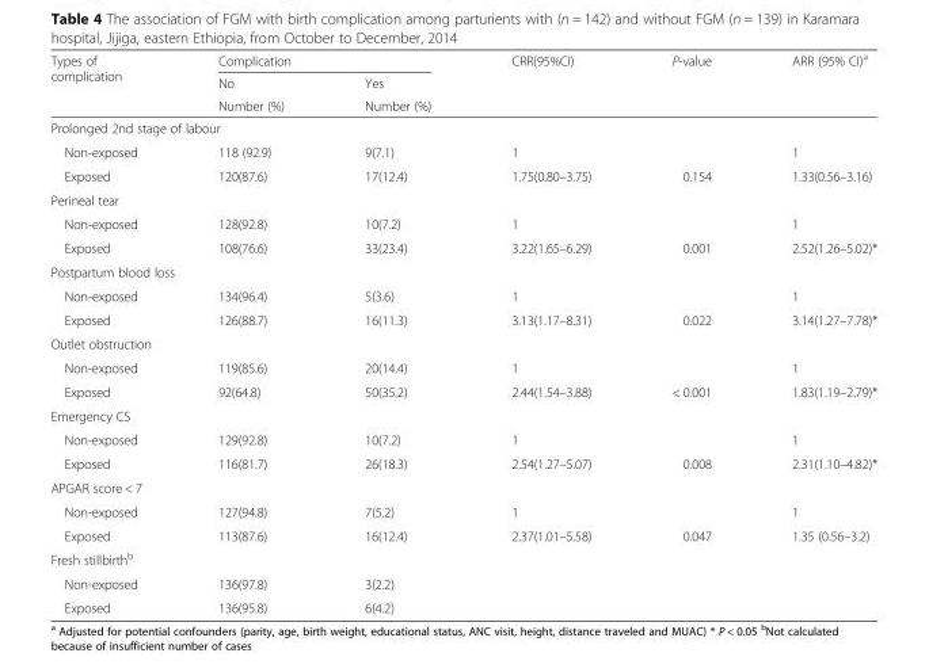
<table><thead><tr><td rowspan="3">Types of complication</td><td colspan="2">Complication</td><td rowspan="3">CRR(95%CI)</td><td rowspan="3">P-value</td><td rowspan="3">ARR (95% CI)<sup>a</sup></td></tr><tr><td rowspan="2">No Number (%)</td><td rowspan="2">Yes Number (%)</td></tr><tr></tr></thead><tbody><tr><td colspan="6">Prolonged 2nd stage of labour</td></tr><tr><td>Non-exposed</td><td>118 (92.9)</td><td>9(7.1)</td><td>1</td><td></td><td>1</td></tr><tr><td>Exposed</td><td>120(87.6)</td><td>17(12.4)</td><td>1.75(0.80–3.75)</td><td>0.154</td><td>1.33(0.56–3.16)</td></tr><tr><td colspan="6">Perineal tear</td></tr><tr><td>Non-exposed</td><td>128(92.8)</td><td>10(7.2)</td><td>1</td><td></td><td>1</td></tr><tr><td>Exposed</td><td>108(76.6)</td><td>33(23.4)</td><td>3.22(1.65–6.29)</td><td>0.001</td><td>2.52(1.26–5.02)*</td></tr><tr><td colspan="6">Postpartum blood loss</td></tr><tr><td>Non-exposed</td><td>134(96.4)</td><td>5(3.6)</td><td>1</td><td></td><td>1</td></tr><tr><td>Exposed</td><td>126(88.7)</td><td>16(11.3)</td><td>3.13(1.17–8.31)</td><td>0.022</td><td>3.14(1.27–7.78)*</td></tr><tr><td colspan="6">Outlet obstruction</td></tr><tr><td>Non-exposed</td><td>119(85.6)</td><td>20(14.4)</td><td>1</td><td></td><td>1</td></tr><tr><td>Exposed</td><td>92(64.8)</td><td>50(35.2)</td><td>2.44(1.54–3.88)</td><td>&lt; 0.001</td><td>1.83(1.19–2.79)*</td></tr><tr><td colspan="6">Emergency CS</td></tr><tr><td>Non-exposed</td><td>129(92.8)</td><td>10(7.2)</td><td>1</td><td></td><td>1</td></tr><tr><td>Exposed</td><td>116(81.7)</td><td>26(18.3)</td><td>2.54(1.27–5.07)</td><td>0.008</td><td>2.31(1.10–4.82)*</td></tr><tr><td colspan="6">APGAR score &lt; 7</td></tr><tr><td>Non-exposed</td><td>127(94.8)</td><td>7(5.2)</td><td>1</td><td></td><td>1</td></tr><tr><td>Exposed</td><td>113(87.6)</td><td>16(12.4)</td><td>2.37(1.01–5.58)</td><td>0.047</td><td>1.35 (0.56–3.2)</td></tr><tr><td colspan="6">Fresh stillbirth<sup>b</sup></td></tr><tr><td>Non-exposed</td><td>136(97.8)</td><td>3(2.2)</td><td></td><td></td><td></td></tr><tr><td>Exposed</td><td>136(95.8)</td><td>6(4.2)</td><td></td><td></td><td></td></tr></tbody></table>